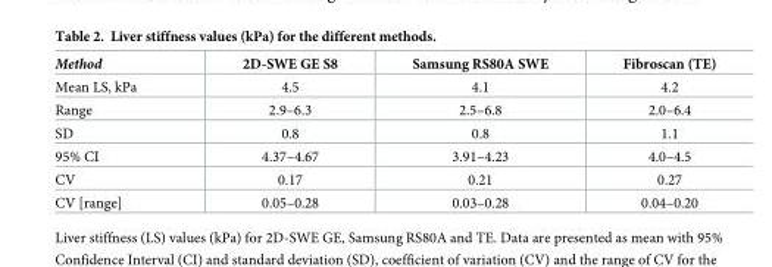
<table><thead><tr><td>Method</td><td>2D-SWE GE S8</td><td>Samsung RS80A SWE</td><td>Fibroscan (TE)</td></tr></thead><tbody><tr><td>Mean LS, kPa</td><td>4.5</td><td>4.1</td><td>4.2</td></tr><tr><td>Range</td><td>2.9–6.3</td><td>2.5–6.8</td><td>2.0–6.4</td></tr><tr><td>SD</td><td>0.8</td><td>0.8</td><td>1.1</td></tr><tr><td>95% CI</td><td>4.37–4.67</td><td>3.91–4.23</td><td>4.0–4.5</td></tr><tr><td>CV</td><td>0.17</td><td>0.21</td><td>0.27</td></tr><tr><td>CV [range]</td><td>0.05–0.28</td><td>0.03–0.28</td><td>0.04–0.20</td></tr></tbody></table>